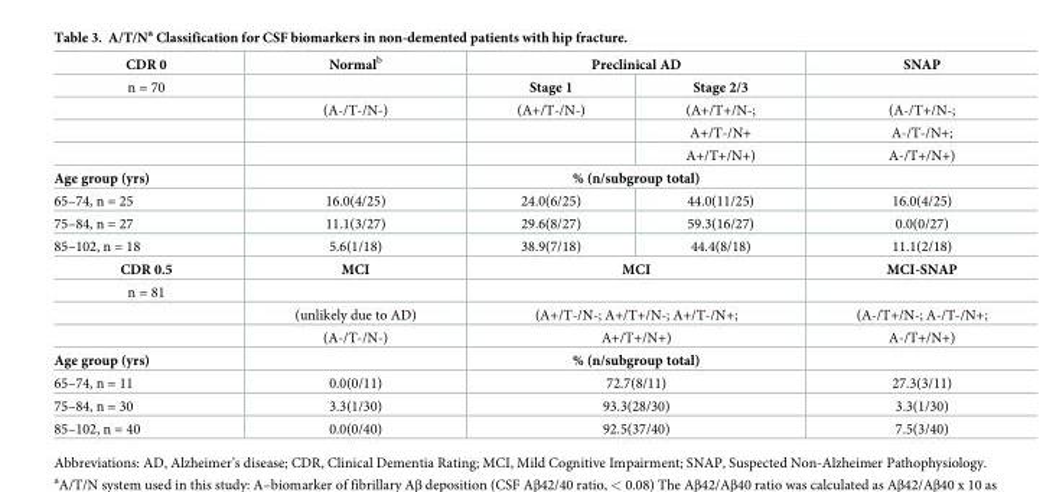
<table><tbody><tr><td>CDR 0</td><td>Normal<sup>b</sup></td><td colspan="2">Preclinical AD</td><td>SNAP</td></tr><tr><td rowspan="4">n = 70</td><td></td><td>Stage 1</td><td>Stage 2/3</td><td></td></tr><tr><td>(A-/T-/N-)</td><td>(A+/T-/N-)</td><td>(A+/T+/N-;</td><td>(A-/T+/N-;</td></tr><tr><td></td><td></td><td>A+/T-/N+</td><td>A-/T-/N+;</td></tr><tr><td></td><td></td><td>A+/T+/N+)</td><td>A-/T+/N+)</td></tr><tr><td>Age group (yrs)</td><td></td><td colspan="2">% (n/subgroup total)</td><td></td></tr><tr><td>65–74, n = 25</td><td>16.0(4/25)</td><td>24.0(6/25)</td><td>44.0(11/25)</td><td>16.0(4/25)</td></tr><tr><td>75–84, n = 27</td><td>11.1(3/27)</td><td>29.6(8/27)</td><td>59.3(16/27)</td><td>0.0(0/27)</td></tr><tr><td>85–102, n = 18</td><td>5.6(1/18)</td><td>38.9(7/18)</td><td>44.4(8/18)</td><td>11.1(2/18)</td></tr><tr><td>CDR 0.5</td><td>MCI</td><td colspan="2">MCI</td><td>MCI-SNAP</td></tr><tr><td colspan="5">n = 81</td></tr><tr><td></td><td>(unlikely due to AD)</td><td colspan="2">(A+/T-/N-; A+/T+/N-; A+/T-/N+;</td><td>(A-/T+/N-; A-/T-/N+;</td></tr><tr><td></td><td>(A-/T-/N-)</td><td colspan="2">A+/T+/N+)</td><td>A-/T+/N+)</td></tr><tr><td>Age group (yrs)</td><td></td><td colspan="2">% (n/subgroup total)</td><td></td></tr><tr><td>65–74, n = 11</td><td>0.0(0/11)</td><td colspan="2">72.7(8/11)</td><td>27.3(3/11)</td></tr><tr><td>75–84, n = 30</td><td>3.3(1/30)</td><td colspan="2">93.3(28/30)</td><td>3.3(1/30)</td></tr><tr><td>85–102, n = 40</td><td>0.0(0/40)</td><td colspan="2">92.5(37/40)</td><td>7.5(3/40)</td></tr></tbody></table>